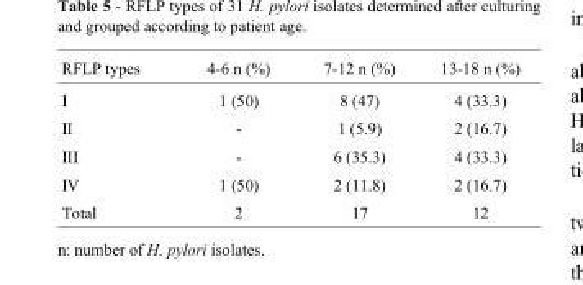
<table><thead><tr><td>RFLP types</td><td>4-6 n (%)</td><td>7-12 n (%)</td><td>13-18 n (%)</td></tr></thead><tbody><tr><td>I</td><td>1 (50)</td><td>8 (47)</td><td>4 (33.3)</td></tr><tr><td>II</td><td>-</td><td>1 (5.9)</td><td>2 (16.7)</td></tr><tr><td>III</td><td>-</td><td>6 (35.3)</td><td>4 (33.3)</td></tr><tr><td>IV</td><td>1 (50)</td><td>2 (11.8)</td><td>2 (16.7)</td></tr><tr><td>Total</td><td>2</td><td>17</td><td>12</td></tr></tbody></table>